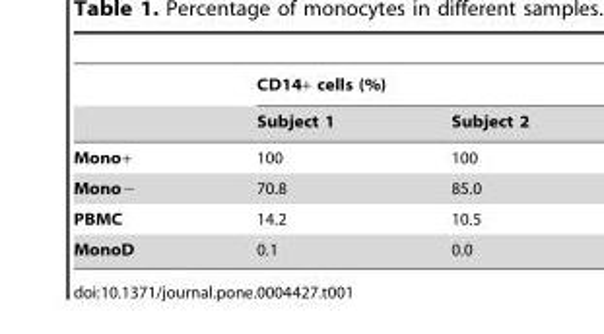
<table><thead><tr><td rowspan="2"></td><td colspan="2">CD14+ cells (%)</td></tr><tr><td>Subject 1</td><td>Subject 2</td></tr></thead><tbody><tr><td>Mono+</td><td>100</td><td>100</td></tr><tr><td>Mono−</td><td>70.8</td><td>85.0</td></tr><tr><td>PBMC</td><td>14.2</td><td>10.5</td></tr><tr><td>MonoD</td><td>0.1</td><td>0.0</td></tr></tbody></table>